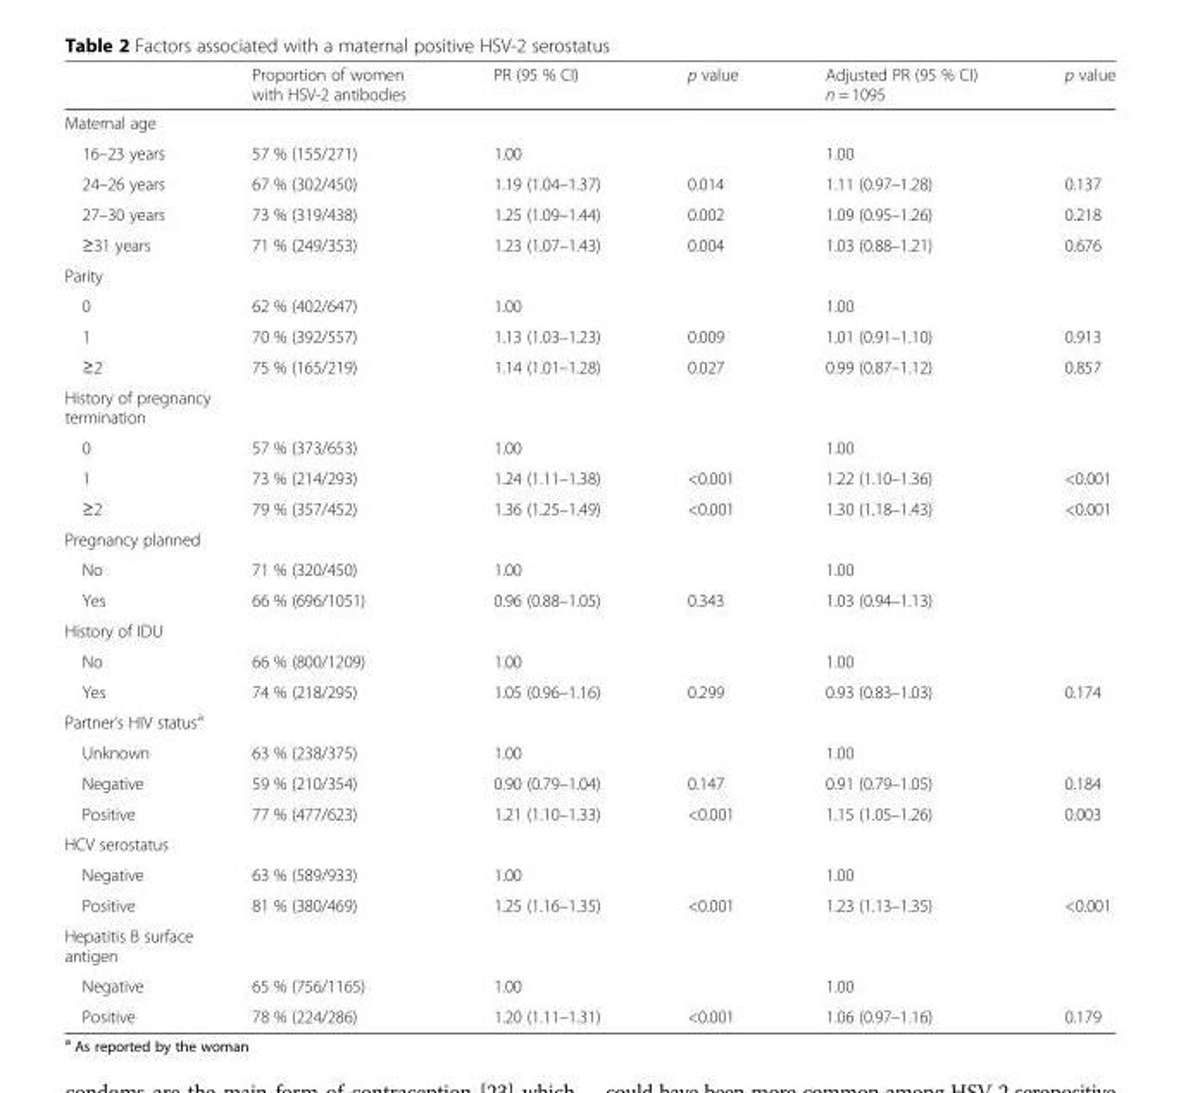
<table><thead><tr><td></td><td>Proportion of women with HSV-2 antibodies</td><td>PR (95 % CI)</td><td>p value</td><td>Adjusted PR (95 % CI) n = 1095</td><td>p value</td></tr></thead><tbody><tr><td colspan="6">Maternal age</td></tr><tr><td>16–23 years</td><td>57 % (155/271)</td><td>1.00</td><td></td><td>1.00</td><td></td></tr><tr><td>24–26 years</td><td>67 % (302/450)</td><td>1.19 (1.04–1.37)</td><td>0.014</td><td>1.11 (0.97–1.28)</td><td>0.137</td></tr><tr><td>27–30 years</td><td>73 % (319/438)</td><td>1.25 (1.09–1.44)</td><td>0.002</td><td>1.09 (0.95–1.26)</td><td>0.218</td></tr><tr><td>≥31 years</td><td>71 % (249/353)</td><td>1.23 (1.07–1.43)</td><td>0.004</td><td>1.03 (0.88–1.21)</td><td>0.676</td></tr><tr><td colspan="6">Parity</td></tr><tr><td>0</td><td>62 % (402/647)</td><td>1.00</td><td></td><td>1.00</td><td></td></tr><tr><td>1</td><td>70 % (392/557)</td><td>1.13 (1.03–1.23)</td><td>0.009</td><td>1.01 (0.91–1.10)</td><td>0.913</td></tr><tr><td>≥2</td><td>75 % (165/219)</td><td>1.14 (1.01–1.28)</td><td>0.027</td><td>0.99 (0.87–1.12)</td><td>0.857</td></tr><tr><td colspan="6">History of pregnancy termination</td></tr><tr><td>0</td><td>57 % (373/653)</td><td>1.00</td><td></td><td>1.00</td><td></td></tr><tr><td>1</td><td>73 % (214/293)</td><td>1.24 (1.11–1.38)</td><td>&lt;0.001</td><td>1.22 (1.10–1.36)</td><td>&lt;0.001</td></tr><tr><td>≥2</td><td>79 % (357/452)</td><td>1.36 (1.25–1.49)</td><td>&lt;0.001</td><td>1.30 (1.18–1.43)</td><td>&lt;0.001</td></tr><tr><td colspan="6">Pregnancy planned</td></tr><tr><td>No</td><td>71 % (320/450)</td><td>1.00</td><td></td><td>1.00</td><td></td></tr><tr><td>Yes</td><td>66 % (696/1051)</td><td>0.96 (0.88–1.05)</td><td>0.343</td><td>1.03 (0.94–1.13)</td><td></td></tr><tr><td colspan="6">History of IDU</td></tr><tr><td>No</td><td>66 % (800/1209)</td><td>1.00</td><td></td><td>1.00</td><td></td></tr><tr><td>Yes</td><td>74 % (218/295)</td><td>1.05 (0.96–1.16)</td><td>0.299</td><td>0.93 (0.83–1.03)</td><td>0.174</td></tr><tr><td colspan="6">Partner’s HIV status<sup>a</sup></td></tr><tr><td>Unknown</td><td>63 % (238/375)</td><td>1.00</td><td></td><td>1.00</td><td></td></tr><tr><td>Negative</td><td>59 % (210/354)</td><td>0.90 (0.79–1.04)</td><td>0.147</td><td>0.91 (0.79–1.05)</td><td>0.184</td></tr><tr><td>Positive</td><td>77 % (477/623)</td><td>1.21 (1.10–1.33)</td><td>&lt;0.001</td><td>1.15 (1.05–1.26)</td><td>0.003</td></tr><tr><td colspan="6">HCV serostatus</td></tr><tr><td>Negative</td><td>63 % (589/933)</td><td>1.00</td><td></td><td>1.00</td><td></td></tr><tr><td>Positive</td><td>81 % (380/469)</td><td>1.25 (1.16–1.35)</td><td>&lt;0.001</td><td>1.23 (1.13–1.35)</td><td>&lt;0.001</td></tr><tr><td colspan="6">Hepatitis B surface antigen</td></tr><tr><td>Negative</td><td>65 % (756/1165)</td><td>1.00</td><td></td><td>1.00</td><td></td></tr><tr><td>Positive</td><td>78 % (224/286)</td><td>1.20 (1.11–1.31)</td><td>&lt;0.001</td><td>1.06 (0.97–1.16)</td><td>0.179</td></tr></tbody></table>